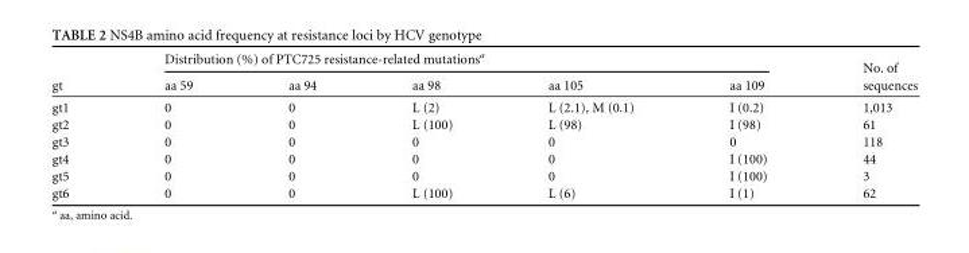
<table><thead><tr><td rowspan="2">gt</td><td colspan="5">Distribution (%) of PTC725 resistance-related mutations<sup>a</sup></td><td rowspan="2">No. of sequences</td></tr><tr><td>aa 59</td><td>aa 94</td><td>aa 98</td><td>aa 105</td><td>aa 109</td></tr></thead><tbody><tr><td>gt1</td><td>0</td><td>0</td><td>L (2)</td><td>L (2.1), M (0.1)</td><td>I (0.2)</td><td>1,013</td></tr><tr><td>gt2</td><td>0</td><td>0</td><td>L (100)</td><td>L (98)</td><td>I (98)</td><td>61</td></tr><tr><td>gt3</td><td>0</td><td>0</td><td>0</td><td>0</td><td>0</td><td>118</td></tr><tr><td>gt4</td><td>0</td><td>0</td><td>0</td><td>0</td><td>I (100)</td><td>44</td></tr><tr><td>gt5</td><td>0</td><td>0</td><td>0</td><td>0</td><td>I (100)</td><td>3</td></tr><tr><td>gt6</td><td>0</td><td>0</td><td>L (100)</td><td>L (6)</td><td>I (1)</td><td>62</td></tr></tbody></table>